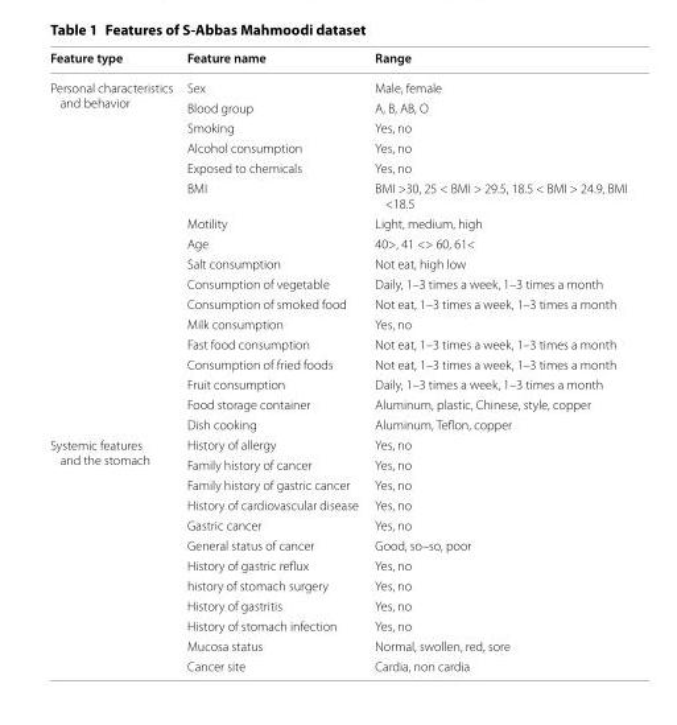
<table><thead><tr><td>Feature type</td><td>Feature name</td><td>Range</td></tr></thead><tbody><tr><td rowspan="17">Personal characteristics and behavior</td><td>Sex</td><td>Male, female</td></tr><tr><td>Blood group</td><td>A, B, AB, O</td></tr><tr><td>Smoking</td><td>Yes, no</td></tr><tr><td>Alcohol consumption</td><td>Yes, no</td></tr><tr><td>Exposed to chemicals</td><td>Yes, no</td></tr><tr><td>BMI</td><td>BMI &gt;30, 25 &lt; BMI &gt; 29.5, 18.5 &lt; BMI &gt; 24.9, BMI &lt;18.5</td></tr><tr><td>Motility</td><td>Light, medium, high</td></tr><tr><td>Age</td><td>40&gt;, 41 &lt;&gt; 60, 61&lt;</td></tr><tr><td>Salt consumption</td><td>Not eat, high low</td></tr><tr><td>Consumption of vegetable</td><td>Daily, 1–3 times a week, 1–3 times a month</td></tr><tr><td>Consumption of smoked food</td><td>Not eat, 1–3 times a week, 1–3 times a month</td></tr><tr><td>Milk consumption</td><td>Yes, no</td></tr><tr><td>Fast food consumption</td><td>Not eat, 1–3 times a week, 1–3 times a month</td></tr><tr><td>Consumption of fried foods</td><td>Not eat, 1–3 times a week, 1–3 times a month</td></tr><tr><td>Fruit consumption</td><td>Daily, 1–3 times a week, 1–3 times a month</td></tr><tr><td>Food storage container</td><td>Aluminum, plastic, Chinese, style, copper</td></tr><tr><td>Dish cooking</td><td>Aluminum, Teflon, copper</td></tr><tr><td rowspan="12">Systemic features and the stomach</td><td>History of allergy</td><td>Yes, no</td></tr><tr><td>Family history of cancer</td><td>Yes, no</td></tr><tr><td>Family history of gastric cancer</td><td>Yes, no</td></tr><tr><td>History of cardiovascular disease</td><td>Yes, no</td></tr><tr><td>Gastric cancer</td><td>Yes, no</td></tr><tr><td>General status of cancer</td><td>Good, so–so, poor</td></tr><tr><td>History of gastric reflux</td><td>Yes, no</td></tr><tr><td>history of stomach surgery</td><td>Yes, no</td></tr><tr><td>History of gastritis</td><td>Yes, no</td></tr><tr><td>History of stomach infection</td><td>Yes, no</td></tr><tr><td>Mucosa status</td><td>Normal, swollen, red, sore</td></tr><tr><td>Cancer site</td><td>Cardia, non cardia</td></tr></tbody></table>